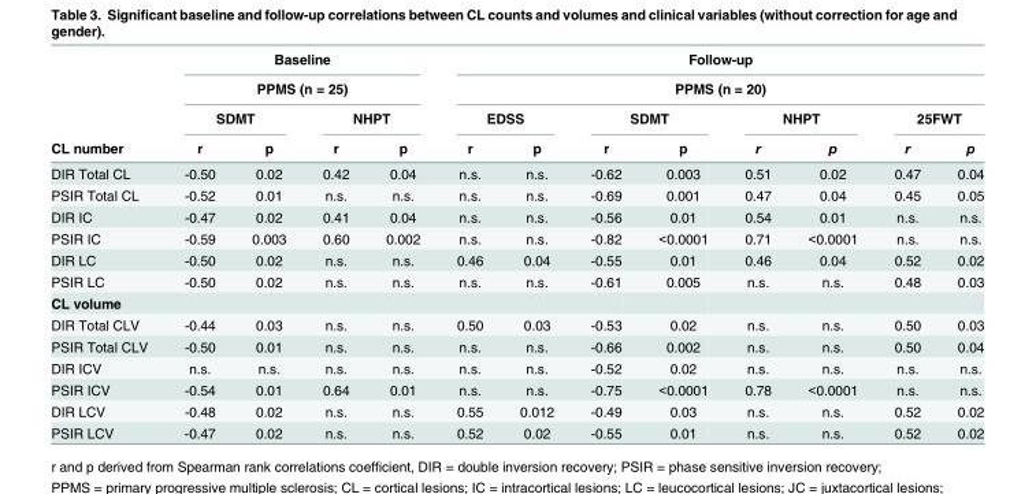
<table><thead><tr><td rowspan="4">CL number</td><td rowspan="2" colspan="4">Baseline PPMS (n = 25)</td><td rowspan="2" colspan="8">Follow-up PPMS (n = 20)</td></tr><tr></tr><tr><td colspan="2">SDMT</td><td colspan="2">NHPT</td><td colspan="2">EDSS</td><td colspan="2">SDMT</td><td colspan="2">NHPT</td><td colspan="2">25FWT</td></tr><tr><td>r</td><td>p</td><td>r</td><td>p</td><td>r</td><td>p</td><td>r</td><td>p</td><td>r</td><td>p</td><td>r</td><td>p</td></tr></thead><tbody><tr><td>DIR Total CL</td><td>-0.50</td><td>0.02</td><td>0.42</td><td>0.04</td><td>n.s.</td><td>n.s.</td><td>-0.62</td><td>0.003</td><td>0.51</td><td>0.02</td><td>0.47</td><td>0.04</td></tr><tr><td>PSIR Total CL</td><td>-0.52</td><td>0.01</td><td>n.s.</td><td>n.s.</td><td>n.s.</td><td>n.s.</td><td>-0.69</td><td>0.001</td><td>0.47</td><td>0.04</td><td>0.45</td><td>0.05</td></tr><tr><td>DIR IC</td><td>-0.47</td><td>0.02</td><td>0.41</td><td>0.04</td><td>n.s.</td><td>n.s.</td><td>-0.56</td><td>0.01</td><td>0.54</td><td>0.01</td><td>n.s.</td><td>n.s.</td></tr><tr><td>PSIR IC</td><td>-0.59</td><td>0.003</td><td>0.60</td><td>0.002</td><td>n.s.</td><td>n.s.</td><td>-0.82</td><td>&lt;0.0001</td><td>0.71</td><td>&lt;0.0001</td><td>n.s.</td><td>n.s.</td></tr><tr><td>DIR LC</td><td>-0.50</td><td>0.02</td><td>n.s.</td><td>n.s.</td><td>0.46</td><td>0.04</td><td>-0.55</td><td>0.01</td><td>0.46</td><td>0.04</td><td>0.52</td><td>0.02</td></tr><tr><td>PSIR LC</td><td>-0.50</td><td>0.02</td><td>n.s.</td><td>n.s.</td><td>n.s.</td><td>n.s.</td><td>-0.61</td><td>0.005</td><td>n.s.</td><td>n.s.</td><td>0.48</td><td>0.03</td></tr><tr><td colspan="13">CL volume</td></tr><tr><td>DIR Total CLV</td><td>-0.44</td><td>0.03</td><td>n.s.</td><td>n.s.</td><td>0.50</td><td>0.03</td><td>-0.53</td><td>0.02</td><td>n.s.</td><td>n.s.</td><td>0.50</td><td>0.03</td></tr><tr><td>PSIR Total CLV</td><td>-0.50</td><td>0.01</td><td>n.s.</td><td>n.s.</td><td>n.s.</td><td>n.s.</td><td>-0.66</td><td>0.002</td><td>n.s.</td><td>n.s.</td><td>0.50</td><td>0.04</td></tr><tr><td>DIR ICV</td><td>n.s.</td><td>n.s.</td><td>n.s.</td><td>n.s.</td><td>n.s.</td><td>n.s.</td><td>-0.52</td><td>0.02</td><td>n.s.</td><td>n.s.</td><td>n.s.</td><td>n.s.</td></tr><tr><td>PSIR ICV</td><td>-0.54</td><td>0.01</td><td>0.64</td><td>0.01</td><td>n.s.</td><td>n.s.</td><td>-0.75</td><td>&lt;0.0001</td><td>0.78</td><td>&lt;0.0001</td><td>n.s.</td><td>n.s.</td></tr><tr><td>DIR LCV</td><td>-0.48</td><td>0.02</td><td>n.s.</td><td>n.s.</td><td>0.55</td><td>0.012</td><td>-0.49</td><td>0.03</td><td>n.s.</td><td>n.s.</td><td>0.52</td><td>0.02</td></tr><tr><td>PSIR LCV</td><td>-0.47</td><td>0.02</td><td>n.s.</td><td>n.s.</td><td>0.52</td><td>0.02</td><td>-0.55</td><td>0.01</td><td>n.s.</td><td>n.s.</td><td>0.52</td><td>0.02</td></tr></tbody></table>